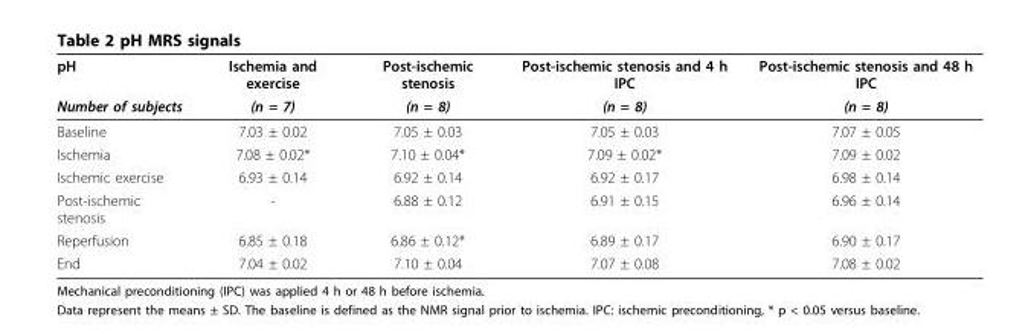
<table><thead><tr><td rowspan="2">pH Number of subjects</td><td rowspan="2">Ischemia and exercise (n = 7)</td><td rowspan="2">Post-ischemic stenosis (n = 8)</td><td rowspan="2">Post-ischemic stenosis and 4 h IPC (n = 8)</td><td rowspan="2">Post-ischemic stenosis and 48 h IPC (n = 8)</td></tr><tr></tr></thead><tbody><tr><td>Baseline</td><td>7.03 ± 0.02</td><td>7.05 ± 0.03</td><td>7.05 ± 0.03</td><td>7.07 ± 0.05</td></tr><tr><td>Ischemia</td><td>7.08 ± 0.02*</td><td>7.10 ± 0.04*</td><td>7.09 ± 0.02*</td><td>7.09 ± 0.02</td></tr><tr><td>Ischemic exercise</td><td>6.93 ± 0.14</td><td>6.92 ± 0.14</td><td>6.92 ± 0.17</td><td>6.98 ± 0.14</td></tr><tr><td>Post-ischemic stenosis</td><td>-</td><td>6.88 ± 0.12</td><td>6.91 ± 0.15</td><td>6.96 ± 0.14</td></tr><tr><td>Reperfusion</td><td>6.85 ± 0.18</td><td>6.86 ± 0.12*</td><td>6.89 ± 0.17</td><td>6.90 ± 0.17</td></tr><tr><td>End</td><td>7.04 ± 0.02</td><td>7.10 ± 0.04</td><td>7.07 ± 0.08</td><td>7.08 ± 0.02</td></tr></tbody></table>